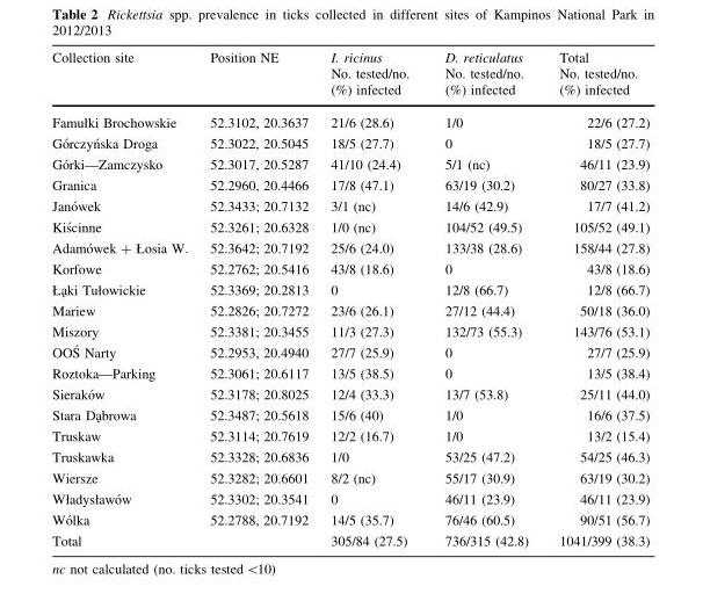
<table><thead><tr><td rowspan="2">Collection site</td><td rowspan="2">Position NE</td><td rowspan="2">I. ricinus No. tested/no. (%) infected</td><td rowspan="2">D. reticulatus No. tested/no. (%) infected</td><td rowspan="2">Total No. tested/no. (%) infected</td></tr><tr></tr></thead><tbody><tr><td>Famułki Brochowskie</td><td>52.3102, 20.3637</td><td>21/6 (28.6)</td><td>1/0</td><td>22/6 (27.2)</td></tr><tr><td>Go´rczyn´ska Droga</td><td>52.3022, 20.5045</td><td>18/5 (27.7)</td><td>0</td><td>18/5 (27.7)</td></tr><tr><td>Go´rki—Zamczysko</td><td>52.3017, 20.5287</td><td>41/10 (24.4)</td><td>5/1 (nc)</td><td>46/11 (23.9)</td></tr><tr><td>Granica</td><td>52.2960, 20.4466</td><td>17/8 (47.1)</td><td>63/19 (30.2)</td><td>80/27 (33.8)</td></tr><tr><td>Jano´wek</td><td>52.3433; 20.7132</td><td>3/1 (nc)</td><td>14/6 (42.9)</td><td>17/7 (41.2)</td></tr><tr><td>Kis´cinne</td><td>52.3261; 20.6328</td><td>1/0 (nc)</td><td>104/52 (49.5)</td><td>105/52 (49.1)</td></tr><tr><td>Adamo´wek ? Łosia W.</td><td>52.3642; 20.7192</td><td>25/6 (24.0)</td><td>133/38 (28.6)</td><td>158/44 (27.8)</td></tr><tr><td>Korfowe</td><td>52.2762; 20.5416</td><td>43/8 (18.6)</td><td>0</td><td>43/8 (18.6)</td></tr><tr><td>Ła˛ki Tułowickie</td><td>52.3369; 20.2813</td><td>0</td><td>12/8 (66.7)</td><td>12/8 (66.7)</td></tr><tr><td>Mariew</td><td>52.2826; 20.7272</td><td>23/6 (26.1)</td><td>27/12 (44.4)</td><td>50/18 (36.0)</td></tr><tr><td>Miszory</td><td>52.3381; 20.3455</td><td>11/3 (27.3)</td><td>132/73 (55.3)</td><td>143/76 (53.1)</td></tr><tr><td>OOS´ Narty</td><td>52.2953, 20.4940</td><td>27/7 (25.9)</td><td>0</td><td>27/7 (25.9)</td></tr><tr><td>Roztoka—Parking</td><td>52.3061; 20.6117</td><td>13/5 (38.5)</td><td>0</td><td>13/5 (38.4)</td></tr><tr><td>Sierako´w</td><td>52.3178; 20.8025</td><td>12/4 (33.3)</td><td>13/7 (53.8)</td><td>25/11 (44.0)</td></tr><tr><td>Stara Da˛browa</td><td>52.3487; 20.5618</td><td>15/6 (40)</td><td>1/0</td><td>16/6 (37.5)</td></tr><tr><td>Truskaw</td><td>52.3114; 20.7619</td><td>12/2 (16.7)</td><td>1/0</td><td>13/2 (15.4)</td></tr><tr><td>Truskawka</td><td>52.3328; 20.6836</td><td>1/0</td><td>53/25 (47.2)</td><td>54/25 (46.3)</td></tr><tr><td>Wiersze</td><td>52.3282; 20.6601</td><td>8/2 (nc)</td><td>55/17 (30.9)</td><td>63/19 (30.2)</td></tr><tr><td>Władysławo´w</td><td>52.3302; 20.3541</td><td>0</td><td>46/11 (23.9)</td><td>46/11 (23.9)</td></tr><tr><td>Wo´lka</td><td>52.2788, 20.7192</td><td>14/5 (35.7)</td><td>76/46 (60.5)</td><td>90/51 (56.7)</td></tr><tr><td>Total</td><td></td><td>305/84 (27.5)</td><td>736/315 (42.8)</td><td>1041/399 (38.3)</td></tr></tbody></table>